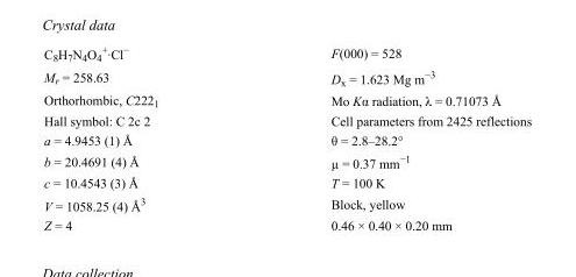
<table><tbody><tr><td>C<sub>8</sub>H<sub>7</sub>N<sub>4</sub>O<sub>4</sub> <sup>+</sup>·Cl<sup>−</sup></td><td>F(000) = 528</td></tr><tr><td>M<sub>r</sub> = 258.63</td><td>D<sub>x</sub> = 1.623 Mg m<sup>−3</sup></td></tr><tr><td>Orthorhombic, C222<sub>1</sub></td><td>Mo Kα radiation, λ = 0.71073 Å</td></tr><tr><td>Hall symbol: C 2c 2</td><td>Cell parameters from 2425 reflections</td></tr><tr><td>a = 4.9453 (1) Å</td><td>θ = 2.8–28.2°</td></tr><tr><td>b = 20.4691 (4) Å</td><td>µ = 0.37 mm<sup>−1</sup></td></tr><tr><td>c = 10.4543 (3) Å</td><td>T = 100 K</td></tr><tr><td>V = 1058.25 (4) Å<sup>3</sup></td><td>Block, yellow</td></tr><tr><td>Z = 4</td><td>0.46 × 0.40 × 0.20 mm</td></tr></tbody></table>